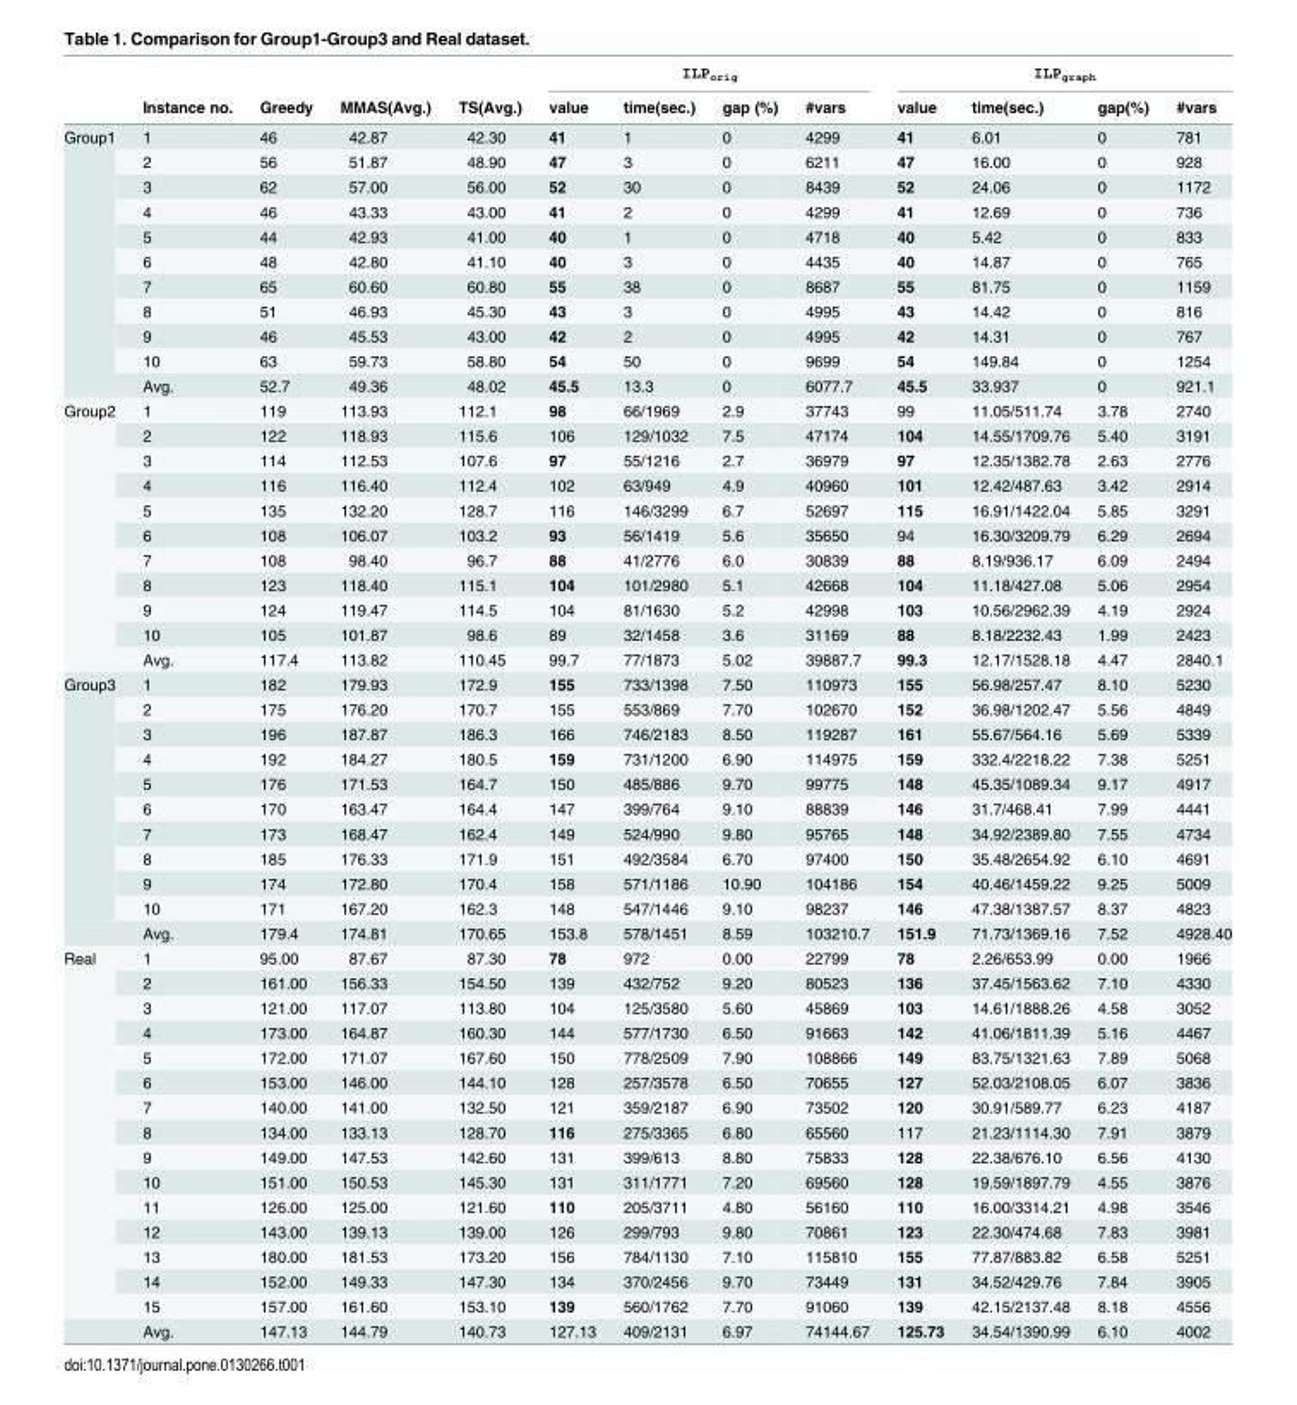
<table><thead><tr><td rowspan="2"></td><td rowspan="2">Instance no.</td><td rowspan="2">Greedy</td><td rowspan="2">MMAS(Avg.)</td><td rowspan="2">TS(Avg.)</td><td colspan="4">ILP<sub>orig</sub></td><td colspan="4">ILP<sub>graph</sub></td></tr><tr><td>value</td><td>time(sec.)</td><td>gap (%)</td><td>#vars</td><td>value</td><td>time(sec.)</td><td>gap(%)</td><td>#vars</td></tr></thead><tbody><tr><td rowspan="11">Group1</td><td>1</td><td>46</td><td>42.87</td><td>42.30</td><td>41</td><td>1</td><td>0</td><td>4299</td><td>41</td><td>6.01</td><td>0</td><td>781</td></tr><tr><td>2</td><td>56</td><td>51.87</td><td>48.90</td><td>47</td><td>3</td><td>0</td><td>6211</td><td>47</td><td>16.00</td><td>0</td><td>928</td></tr><tr><td>3</td><td>62</td><td>57.00</td><td>56.00</td><td>52</td><td>30</td><td>0</td><td>8439</td><td>52</td><td>24.06</td><td>0</td><td>1172</td></tr><tr><td>4</td><td>46</td><td>43.33</td><td>43.00</td><td>41</td><td>2</td><td>0</td><td>4299</td><td>41</td><td>12.69</td><td>0</td><td>736</td></tr><tr><td>5</td><td>44</td><td>42.93</td><td>41.00</td><td>40</td><td>1</td><td>0</td><td>4718</td><td>40</td><td>5.42</td><td>0</td><td>833</td></tr><tr><td>6</td><td>48</td><td>42.80</td><td>41.10</td><td>40</td><td>3</td><td>0</td><td>4435</td><td>40</td><td>14.87</td><td>0</td><td>765</td></tr><tr><td>7</td><td>65</td><td>60.60</td><td>60.80</td><td>55</td><td>38</td><td>0</td><td>8687</td><td>55</td><td>81.75</td><td>0</td><td>1159</td></tr><tr><td>8</td><td>51</td><td>46.93</td><td>45.30</td><td>43</td><td>3</td><td>0</td><td>4995</td><td>43</td><td>14.42</td><td>0</td><td>816</td></tr><tr><td>9</td><td>46</td><td>45.53</td><td>43.00</td><td>42</td><td>2</td><td>0</td><td>4995</td><td>42</td><td>14.31</td><td>0</td><td>767</td></tr><tr><td>10</td><td>63</td><td>59.73</td><td>58.80</td><td>54</td><td>50</td><td>0</td><td>9699</td><td>54</td><td>149.84</td><td>0</td><td>1254</td></tr><tr><td>Avg.</td><td>52.7</td><td>49.36</td><td>48.02</td><td>45.5</td><td>13.3</td><td>0</td><td>6077.7</td><td>45.5</td><td>33.937</td><td>0</td><td>921.1</td></tr><tr><td rowspan="11">Group2</td><td>1</td><td>119</td><td>113.93</td><td>112.1</td><td>98</td><td>66/1969</td><td>2.9</td><td>37743</td><td>99</td><td>11.05/511.74</td><td>3.78</td><td>2740</td></tr><tr><td>2</td><td>122</td><td>118.93</td><td>115.6</td><td>106</td><td>129/1032</td><td>7.5</td><td>47174</td><td>104</td><td>14.55/1709.76</td><td>5.40</td><td>3191</td></tr><tr><td>3</td><td>114</td><td>112.53</td><td>107.6</td><td>97</td><td>55/1216</td><td>2.7</td><td>36979</td><td>97</td><td>12.35/1382.78</td><td>2.63</td><td>2776</td></tr><tr><td>4</td><td>116</td><td>116.40</td><td>112.4</td><td>102</td><td>63/949</td><td>4.9</td><td>40960</td><td>101</td><td>12.42/487.63</td><td>3.42</td><td>2914</td></tr><tr><td>5</td><td>135</td><td>132.20</td><td>128.7</td><td>116</td><td>146/3299</td><td>6.7</td><td>52697</td><td>115</td><td>16.91/1422.04</td><td>5.85</td><td>3291</td></tr><tr><td>6</td><td>108</td><td>106.07</td><td>103.2</td><td>93</td><td>56/1419</td><td>5.6</td><td>35650</td><td>94</td><td>16.30/3209.79</td><td>6.29</td><td>2694</td></tr><tr><td>7</td><td>108</td><td>98.40</td><td>96.7</td><td>88</td><td>41/2776</td><td>6.0</td><td>30839</td><td>88</td><td>8.19/936.17</td><td>6.09</td><td>2494</td></tr><tr><td>8</td><td>123</td><td>118.40</td><td>115.1</td><td>104</td><td>101/2980</td><td>5.1</td><td>42668</td><td>104</td><td>11.18/427.08</td><td>5.06</td><td>2954</td></tr><tr><td>9</td><td>124</td><td>119.47</td><td>114.5</td><td>104</td><td>81/1630</td><td>5.2</td><td>42998</td><td>103</td><td>10.56/2962.39</td><td>4.19</td><td>2924</td></tr><tr><td>10</td><td>105</td><td>101.87</td><td>98.6</td><td>89</td><td>32/1458</td><td>3.6</td><td>31169</td><td>88</td><td>8.18/2232.43</td><td>1.99</td><td>2423</td></tr><tr><td>Avg.</td><td>117.4</td><td>113.82</td><td>110.45</td><td>99.7</td><td>77/1873</td><td>5.02</td><td>39887.7</td><td>99.3</td><td>12.17/1528.18</td><td>4.47</td><td>2840.1</td></tr><tr><td rowspan="11">Group3</td><td>1</td><td>182</td><td>179.93</td><td>172.9</td><td>155</td><td>733/1398</td><td>7.50</td><td>110973</td><td>155</td><td>56.98/257.47</td><td>8.10</td><td>5230</td></tr><tr><td>2</td><td>175</td><td>176.20</td><td>170.7</td><td>155</td><td>553/869</td><td>7.70</td><td>102670</td><td>152</td><td>36.98/1202.47</td><td>5.56</td><td>4849</td></tr><tr><td>3</td><td>196</td><td>187.87</td><td>186.3</td><td>166</td><td>746/2183</td><td>8.50</td><td>119287</td><td>161</td><td>55.67/564.16</td><td>5.69</td><td>5339</td></tr><tr><td>4</td><td>192</td><td>184.27</td><td>180.5</td><td>159</td><td>731/1200</td><td>6.90</td><td>114975</td><td>159</td><td>332.4/2218.22</td><td>7.38</td><td>5251</td></tr><tr><td>5</td><td>176</td><td>171.53</td><td>164.7</td><td>150</td><td>485/886</td><td>9.70</td><td>99775</td><td>148</td><td>45.35/1089.34</td><td>9.17</td><td>4917</td></tr><tr><td>6</td><td>170</td><td>163.47</td><td>164.4</td><td>147</td><td>399/764</td><td>9.10</td><td>88839</td><td>146</td><td>31.7/468.41</td><td>7.99</td><td>4441</td></tr><tr><td>7</td><td>173</td><td>168.47</td><td>162.4</td><td>149</td><td>524/990</td><td>9.80</td><td>95765</td><td>148</td><td>34.92/2389.80</td><td>7.55</td><td>4734</td></tr><tr><td>8</td><td>185</td><td>176.33</td><td>171.9</td><td>151</td><td>492/3584</td><td>6.70</td><td>97400</td><td>150</td><td>35.48/2654.92</td><td>6.10</td><td>4691</td></tr><tr><td>9</td><td>174</td><td>172.80</td><td>170.4</td><td>158</td><td>571/1186</td><td>10.90</td><td>104186</td><td>154</td><td>40.46/1459.22</td><td>9.25</td><td>5009</td></tr><tr><td>10</td><td>171</td><td>167.20</td><td>162.3</td><td>148</td><td>547/1446</td><td>9.10</td><td>98237</td><td>146</td><td>47.38/1387.57</td><td>8.37</td><td>4823</td></tr><tr><td>Avg.</td><td>179.4</td><td>174.81</td><td>170.65</td><td>153.8</td><td>578/1451</td><td>8.59</td><td>103210.7</td><td>151.9</td><td>71.73/1369.16</td><td>7.52</td><td>4928.40</td></tr><tr><td rowspan="16">Real</td><td>1</td><td>95.00</td><td>87.67</td><td>87.30</td><td>78</td><td>972</td><td>0.00</td><td>22799</td><td>78</td><td>2.26/653.99</td><td>0.00</td><td>1966</td></tr><tr><td>2</td><td>161.00</td><td>156.33</td><td>154.50</td><td>139</td><td>432/752</td><td>9.20</td><td>80523</td><td>136</td><td>37.45/1563.62</td><td>7.10</td><td>4330</td></tr><tr><td>3</td><td>121.00</td><td>117.07</td><td>113.80</td><td>104</td><td>125/3580</td><td>5.60</td><td>45869</td><td>103</td><td>14.61/1888.26</td><td>4.58</td><td>3052</td></tr><tr><td>4</td><td>173.00</td><td>164.87</td><td>160.30</td><td>144</td><td>577/1730</td><td>6.50</td><td>91663</td><td>142</td><td>41.06/1811.39</td><td>5.16</td><td>4467</td></tr><tr><td>5</td><td>172.00</td><td>171.07</td><td>167.60</td><td>150</td><td>778/2509</td><td>7.90</td><td>108866</td><td>149</td><td>83.75/1321.63</td><td>7.89</td><td>5068</td></tr><tr><td>6</td><td>153.00</td><td>146.00</td><td>144.10</td><td>128</td><td>257/3578</td><td>6.50</td><td>70655</td><td>127</td><td>52.03/2108.05</td><td>6.07</td><td>3836</td></tr><tr><td>7</td><td>140.00</td><td>141.00</td><td>132.50</td><td>121</td><td>359/2187</td><td>6.90</td><td>73502</td><td>120</td><td>30.91/589.77</td><td>6.23</td><td>4187</td></tr><tr><td>8</td><td>134.00</td><td>133.13</td><td>128.70</td><td>116</td><td>275/3365</td><td>6.80</td><td>65560</td><td>117</td><td>21.23/1114.30</td><td>7.91</td><td>3879</td></tr><tr><td>9</td><td>149.00</td><td>147.53</td><td>142.60</td><td>131</td><td>399/613</td><td>8.80</td><td>75833</td><td>128</td><td>22.38/676.10</td><td>6.56</td><td>4130</td></tr><tr><td>10</td><td>151.00</td><td>150.53</td><td>145.30</td><td>131</td><td>311/1771</td><td>7.20</td><td>69560</td><td>128</td><td>19.59/1897.79</td><td>4.55</td><td>3876</td></tr><tr><td>11</td><td>126.00</td><td>125.00</td><td>121.60</td><td>110</td><td>205/3711</td><td>4.80</td><td>56160</td><td>110</td><td>16.00/3314.21</td><td>4.98</td><td>3546</td></tr><tr><td>12</td><td>143.00</td><td>139.13</td><td>139.00</td><td>126</td><td>299/793</td><td>9.80</td><td>70861</td><td>123</td><td>22.30/474.68</td><td>7.83</td><td>3981</td></tr><tr><td>13</td><td>180.00</td><td>181.53</td><td>173.20</td><td>156</td><td>784/1130</td><td>7.10</td><td>115810</td><td>155</td><td>77.87/883.82</td><td>6.58</td><td>5251</td></tr><tr><td>14</td><td>152.00</td><td>149.33</td><td>147.30</td><td>134</td><td>370/2456</td><td>9.70</td><td>73449</td><td>131</td><td>34.52/429.76</td><td>7.84</td><td>3905</td></tr><tr><td>15</td><td>157.00</td><td>161.60</td><td>153.10</td><td>139</td><td>560/1762</td><td>7.70</td><td>91060</td><td>139</td><td>42.15/2137.48</td><td>8.18</td><td>4556</td></tr><tr><td>Avg.</td><td>147.13</td><td>144.79</td><td>140.73</td><td>127.13</td><td>409/2131</td><td>6.97</td><td>74144.67</td><td>125.73</td><td>34.54/1390.99</td><td>6.10</td><td>4002</td></tr></tbody></table>